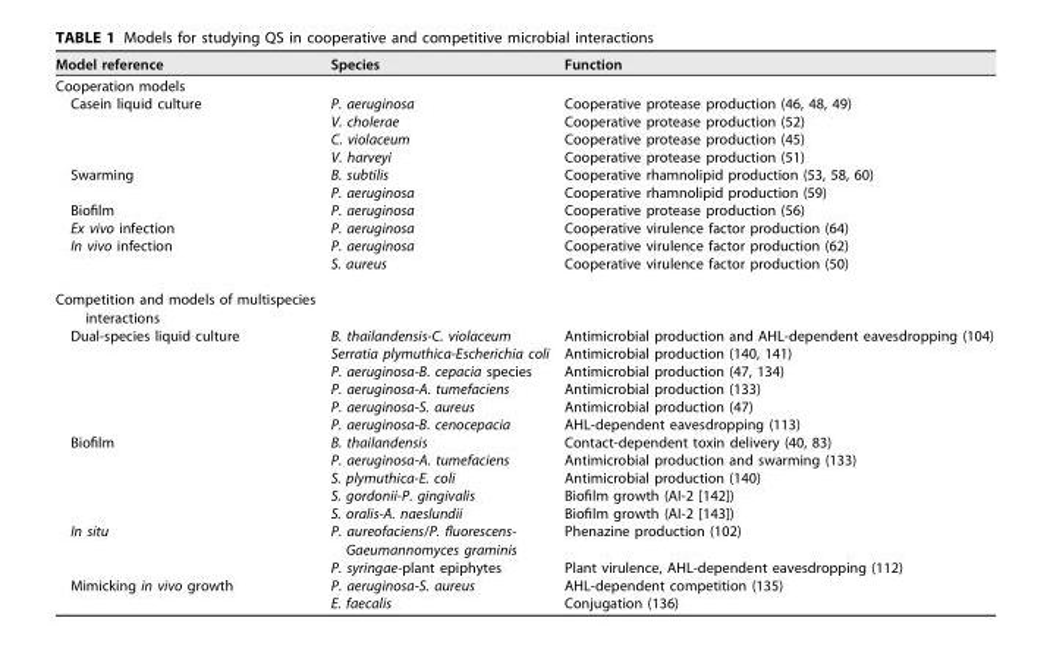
<table><thead><tr><td>Model reference</td><td>Species</td><td>Function</td></tr></thead><tbody><tr><td colspan="3">Cooperation models</td></tr><tr><td rowspan="4">Casein liquid culture</td><td>P. aeruginosa</td><td>Cooperative protease production (46, 48, 49)</td></tr><tr><td>V. cholerae</td><td>Cooperative protease production (52)</td></tr><tr><td>C. violaceum</td><td>Cooperative protease production (45)</td></tr><tr><td>V. harveyi</td><td>Cooperative protease production (51)</td></tr><tr><td rowspan="2">Swarming</td><td>B. subtilis</td><td>Cooperative rhamnolipid production (53, 58, 60)</td></tr><tr><td>P. aeruginosa</td><td>Cooperative rhamnolipid production (59)</td></tr><tr><td>Biofilm</td><td>P. aeruginosa</td><td>Cooperative protease production (56)</td></tr><tr><td>Ex vivo infection</td><td>P. aeruginosa</td><td>Cooperative virulence factor production (64)</td></tr><tr><td rowspan="2">In vivo infection</td><td>P. aeruginosa</td><td>Cooperative virulence factor production (62)</td></tr><tr><td>S. aureus</td><td>Cooperative virulence factor production (50)</td></tr><tr><td colspan="3">Competition and models of multispecies interactions</td></tr><tr><td rowspan="6">Dual-species liquid culture</td><td>B. thailandensis-C. violaceum</td><td>Antimicrobial production and AHL-dependent eavesdropping (104)</td></tr><tr><td>Serratia plymuthica-Escherichia coli</td><td>Antimicrobial production (140, 141)</td></tr><tr><td>P. aeruginosa-B. cepacia species</td><td>Antimicrobial production (47, 134)</td></tr><tr><td>P. aeruginosa-A. tumefaciens</td><td>Antimicrobial production (133)</td></tr><tr><td>P. aeruginosa-S. aureus</td><td>Antimicrobial production (47)</td></tr><tr><td>P. aeruginosa-B. cenocepacia</td><td>AHL-dependent eavesdropping (113)</td></tr><tr><td rowspan="5">Biofilm</td><td>B. thailandensis</td><td>Contact-dependent toxin delivery (40, 83)</td></tr><tr><td>P. aeruginosa-A. tumefaciens</td><td>Antimicrobial production and swarming (133)</td></tr><tr><td>S. plymuthica-E. coli</td><td>Antimicrobial production (140)</td></tr><tr><td>S. gordonii-P. gingivalis</td><td>Biofilm growth (AI-2 [142])</td></tr><tr><td>S. oralis-A. naeslundii</td><td>Biofilm growth (AI-2 [143])</td></tr><tr><td rowspan="2">In situ</td><td>P. aureofaciens/P. fluorescens- Gaeumannomyces graminis</td><td>Phenazine production (102)</td></tr><tr><td>P. syringae-plant epiphytes</td><td>Plant virulence, AHL-dependent eavesdropping (112)</td></tr><tr><td rowspan="2">Mimicking in vivo growth</td><td>P. aeruginosa-S. aureus</td><td>AHL-dependent competition (135)</td></tr><tr><td>E. faecalis</td><td>Conjugation (136)</td></tr></tbody></table>